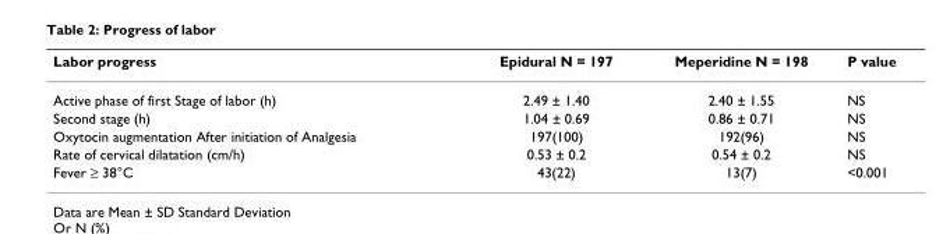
<table><thead><tr><td>Labor progress</td><td>Epidural N = 197</td><td>Meperidine N = 198</td><td>P value</td></tr></thead><tbody><tr><td>Active phase of first Stage of labor (h)</td><td>2.49 ± 1.40</td><td>2.40 ± 1.55</td><td>NS</td></tr><tr><td>Second stage (h)</td><td>1.04 ± 0.69</td><td>0.86 ± 0.71</td><td>NS</td></tr><tr><td>Oxytocin augmentation After initiation of Analgesia</td><td>197(100)</td><td>192(96)</td><td>NS</td></tr><tr><td>Rate of cervical dilatation (cm/h)</td><td>0.53 ± 0.2</td><td>0.54 ± 0.2</td><td>NS</td></tr><tr><td>Fever ≥ 38°C</td><td>43(22)</td><td>13(7)</td><td>&lt;0.001</td></tr></tbody></table>